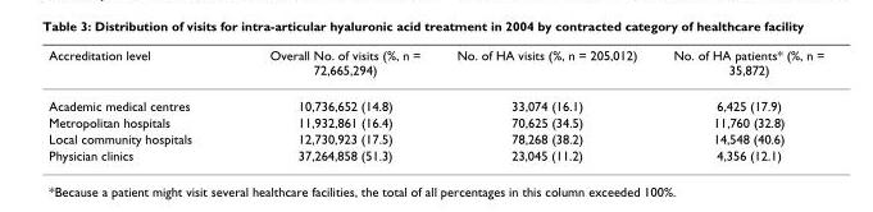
<table><thead><tr><td>Accreditation level</td><td>Overall No. of visits (%, n = 72,665,294)</td><td>No. of HA visits (%, n = 205,012)</td><td>No. of HA patients* (%, n = 35,872)</td></tr></thead><tbody><tr><td>Academic medical centres</td><td>10,736,652 (14.8)</td><td>33,074 (16.1)</td><td>6,425 (17.9)</td></tr><tr><td>Metropolitan hospitals</td><td>11,932,861 (16.4)</td><td>70,625 (34.5)</td><td>11,760 (32.8)</td></tr><tr><td>Local community hospitals</td><td>12,730,923 (17.5)</td><td>78,268 (38.2)</td><td>14,548 (40.6)</td></tr><tr><td>Physician clinics</td><td>37,264,858 (51.3)</td><td>23,045 (11.2)</td><td>4,356 (12.1)</td></tr></tbody></table>